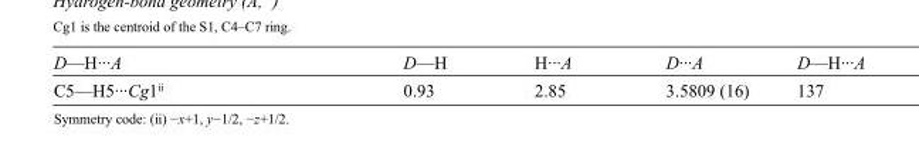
<table><tbody><tr><td>D—H···A</td><td>D—H</td><td>H···A</td><td>D···A</td><td>D—H···A</td></tr><tr><td>C5—H5···Cg1<sup>ii</sup></td><td>0.93</td><td>2.85</td><td>3.5809 (16)</td><td>137</td></tr></tbody></table>